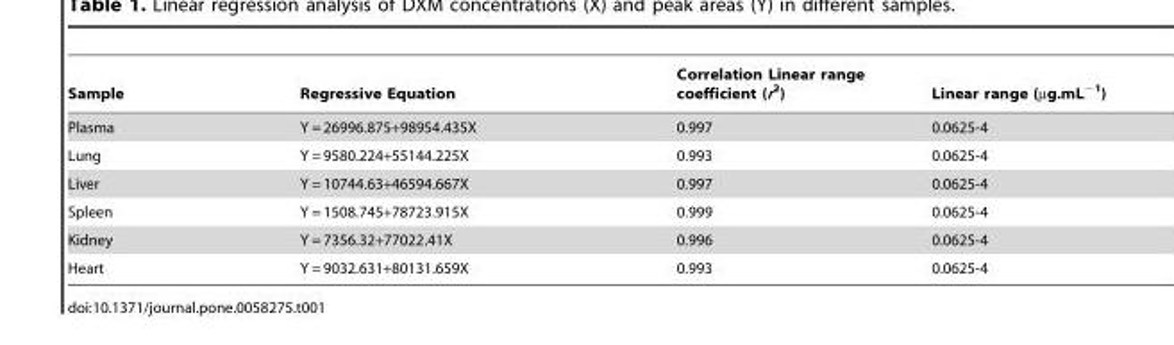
<table><thead><tr><td>Sample</td><td>Regressive Equation</td><td>Correlation Linear range coefficient (r<sup>2</sup>)</td><td>Linear range (µg.mL<sup>−1</sup>)</td></tr></thead><tbody><tr><td>Plasma</td><td>Y = 26996.875+98954.435X</td><td>0.997</td><td>0.0625-4</td></tr><tr><td>Lung</td><td>Y = 9580.224+55144.225X</td><td>0.993</td><td>0.0625-4</td></tr><tr><td>Liver</td><td>Y = 10744.63+46594.667X</td><td>0.997</td><td>0.0625-4</td></tr><tr><td>Spleen</td><td>Y = 1508.745+78723.915X</td><td>0.999</td><td>0.0625-4</td></tr><tr><td>Kidney</td><td>Y = 7356.32+77022.41X</td><td>0.996</td><td>0.0625-4</td></tr><tr><td>Heart</td><td>Y = 9032.631+80131.659X</td><td>0.993</td><td>0.0625-4</td></tr></tbody></table>